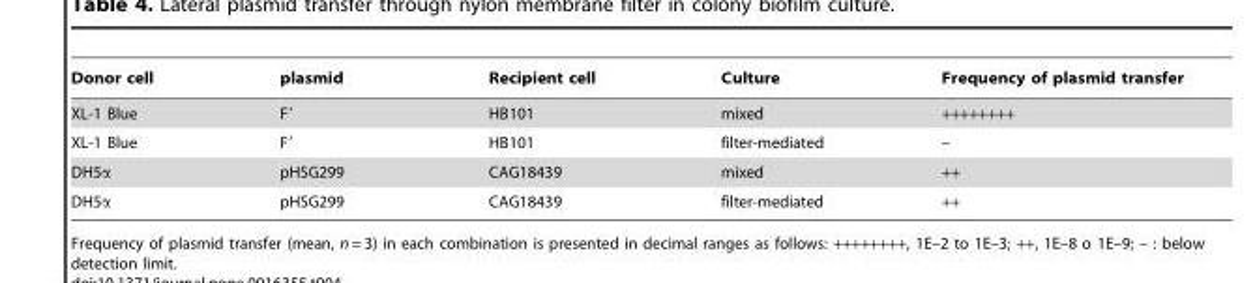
<table><thead><tr><td>Donor cell</td><td>plasmid</td><td>Recipient cell</td><td>Culture</td><td>Frequency of plasmid transfer</td></tr></thead><tbody><tr><td>XL-1 Blue</td><td>F′</td><td>HB101</td><td>mixed</td><td>++++++++</td></tr><tr><td>XL-1 Blue</td><td>F′</td><td>HB101</td><td>filter-mediated</td><td>–</td></tr><tr><td>DH5α</td><td>pHSG299</td><td>CAG18439</td><td>mixed</td><td>++</td></tr><tr><td>DH5α</td><td>pHSG299</td><td>CAG18439</td><td>filter-mediated</td><td>++</td></tr></tbody></table>